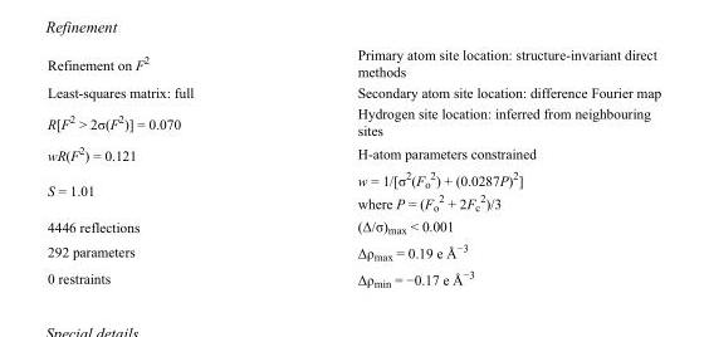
<table><tbody><tr><td>Refinement on F<sup>2</sup></td><td>Primary atom site location: structure-invariant direct methods</td></tr><tr><td>Least-squares matrix: full</td><td>Secondary atom site location: difference Fourier map</td></tr><tr><td>R[F<sup>2</sup> &gt; 2σ(F<sup>2</sup>)] = 0.070</td><td>Hydrogen site location: inferred from neighbouring sites</td></tr><tr><td>wR(F<sup>2</sup>) = 0.121</td><td>H-atom parameters constrained</td></tr><tr><td>S = 1.01</td><td>w = 1/[σ<sup>2</sup>(F<sub>o</sub> <sup>2</sup>) + (0.0287P)<sup>2</sup>] where P = (F<sub>o</sub> <sup>2</sup> + 2F<sub>c</sub> <sup>2</sup>)/3</td></tr><tr><td>4446 reflections</td><td>(Δ/σ)<sub>max</sub> &lt; 0.001</td></tr><tr><td>292 parameters</td><td>Δρ<sub>max</sub> = 0.19 e Å<sup>−3</sup></td></tr><tr><td>0 restraints</td><td>Δρ<sub>min</sub> = −0.17 e Å<sup>−3</sup></td></tr></tbody></table>